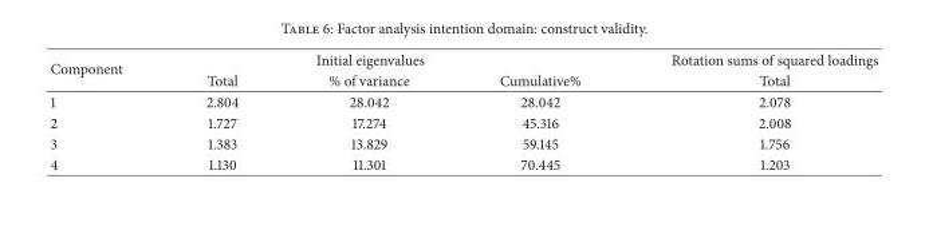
<table><thead><tr><td rowspan="2">Component</td><td colspan="3">Initial eigenvalues</td><td rowspan="2">Rotation sums of squared loadings Total</td></tr><tr><td>Total</td><td>% of variance</td><td>Cumulative%</td></tr></thead><tbody><tr><td>1</td><td>2.804</td><td>28.042</td><td>28.042</td><td>2.078</td></tr><tr><td>2</td><td>1.727</td><td>17.274</td><td>45.316</td><td>2.008</td></tr><tr><td>3</td><td>1.383</td><td>13.829</td><td>59.145</td><td>1.756</td></tr><tr><td>4</td><td>1.130</td><td>11.301</td><td>70.445</td><td>1.203</td></tr></tbody></table>